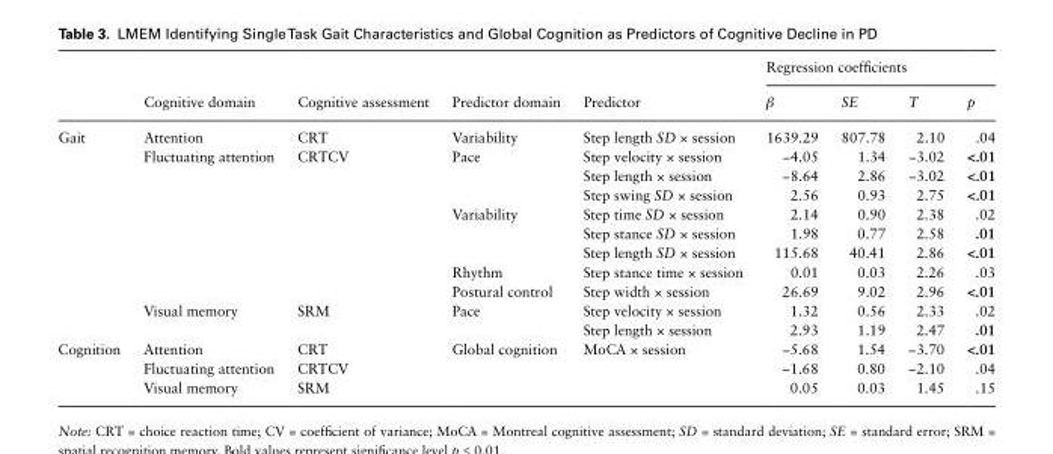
<table><thead><tr><td rowspan="2"></td><td rowspan="2">Cognitive domain</td><td rowspan="2">Cognitive assessment</td><td rowspan="2">Predictor domain</td><td rowspan="2">Predictor</td><td colspan="4">Regression coefficients</td></tr><tr><td>β</td><td>SE</td><td>T</td><td>p</td></tr></thead><tbody><tr><td rowspan="11">Gait</td><td>Attention</td><td>CRT</td><td>Variability</td><td>Step length SD × session</td><td>1639.29</td><td>807.78</td><td>2.10</td><td>.04</td></tr><tr><td>Fluctuating attention</td><td>CRTCV</td><td>Pace</td><td>Step velocity × session</td><td>−4.05</td><td>1.34</td><td>−3.02</td><td>&lt;.01</td></tr><tr><td></td><td></td><td></td><td>Step length × session</td><td>−8.64</td><td>2.86</td><td>−3.02</td><td>&lt;.01</td></tr><tr><td></td><td></td><td></td><td>Step swing SD × session</td><td>2.56</td><td>0.93</td><td>2.75</td><td>&lt;.01</td></tr><tr><td></td><td></td><td>Variability</td><td>Step time SD × session</td><td>2.14</td><td>0.90</td><td>2.38</td><td>.02</td></tr><tr><td></td><td></td><td></td><td>Step stance SD × session</td><td>1.98</td><td>0.77</td><td>2.58</td><td>.01</td></tr><tr><td></td><td></td><td></td><td>Step length SD × session</td><td>115.68</td><td>40.41</td><td>2.86</td><td>&lt;.01</td></tr><tr><td></td><td></td><td>Rhythm</td><td>Step stance time × session</td><td>0.01</td><td>0.03</td><td>2.26</td><td>.03</td></tr><tr><td></td><td></td><td>Postural control</td><td>Step width × session</td><td>26.69</td><td>9.02</td><td>2.96</td><td>&lt;.01</td></tr><tr><td>Visual memory</td><td>SRM</td><td>Pace</td><td>Step velocity × session</td><td>1.32</td><td>0.56</td><td>2.33</td><td>.02</td></tr><tr><td></td><td></td><td></td><td>Step length × session</td><td>2.93</td><td>1.19</td><td>2.47</td><td>.01</td></tr><tr><td rowspan="3">Cognition</td><td>Attention</td><td>CRT</td><td>Global cognition</td><td>MoCA × session</td><td>−5.68</td><td>1.54</td><td>−3.70</td><td>&lt;.01</td></tr><tr><td>Fluctuating attention</td><td>CRTCV</td><td></td><td></td><td>−1.68</td><td>0.80</td><td>−2.10</td><td>.04</td></tr><tr><td>Visual memory</td><td>SRM</td><td></td><td></td><td>0.05</td><td>0.03</td><td>1.45</td><td>.15</td></tr></tbody></table>